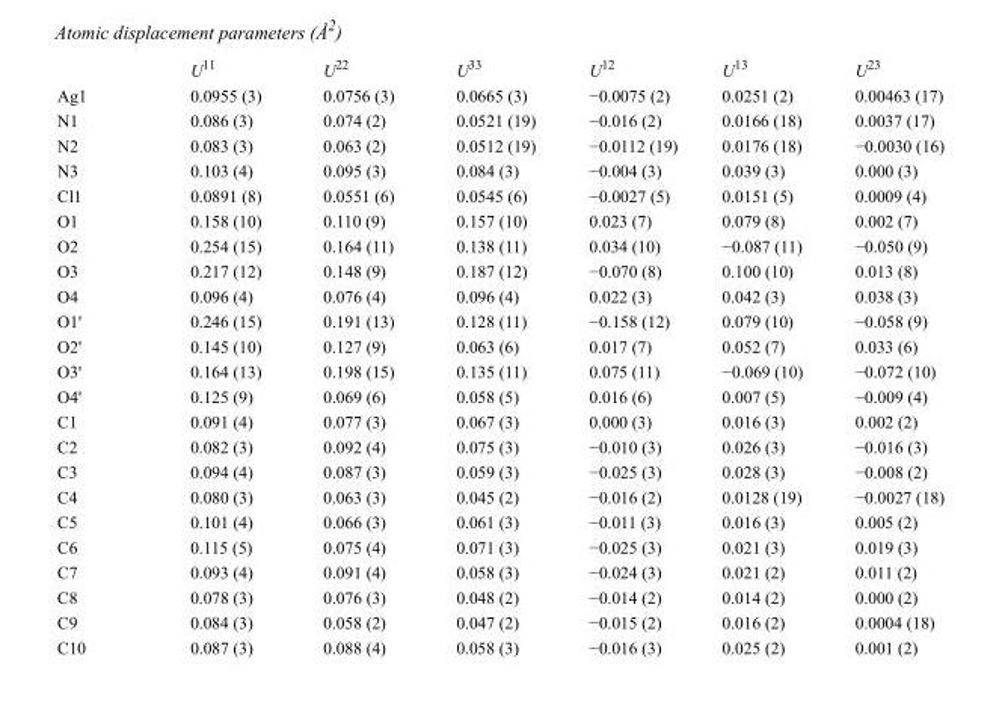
<table><thead><tr><td></td><td>U<sup>11</sup></td><td>U<sup>22</sup></td><td>U<sup>33</sup></td><td>U<sup>12</sup></td><td>U<sup>13</sup></td><td>U<sup>23</sup></td></tr></thead><tbody><tr><td>Ag1</td><td>0.0955 (3)</td><td>0.0756 (3)</td><td>0.0665 (3)</td><td>−0.0075 (2)</td><td>0.0251 (2)</td><td>0.00463 (17)</td></tr><tr><td>N1</td><td>0.086 (3)</td><td>0.074 (2)</td><td>0.0521 (19)</td><td>−0.016 (2)</td><td>0.0166 (18)</td><td>0.0037 (17)</td></tr><tr><td>N2</td><td>0.083 (3)</td><td>0.063 (2)</td><td>0.0512 (19)</td><td>−0.0112 (19)</td><td>0.0176 (18)</td><td>−0.0030 (16)</td></tr><tr><td>N3</td><td>0.103 (4)</td><td>0.095 (3)</td><td>0.084 (3)</td><td>−0.004 (3)</td><td>0.039 (3)</td><td>0.000 (3)</td></tr><tr><td>Cl1</td><td>0.0891 (8)</td><td>0.0551 (6)</td><td>0.0545 (6)</td><td>−0.0027 (5)</td><td>0.0151 (5)</td><td>0.0009 (4)</td></tr><tr><td>O1</td><td>0.158 (10)</td><td>0.110 (9)</td><td>0.157 (10)</td><td>0.023 (7)</td><td>0.079 (8)</td><td>0.002 (7)</td></tr><tr><td>O2</td><td>0.254 (15)</td><td>0.164 (11)</td><td>0.138 (11)</td><td>0.034 (10)</td><td>−0.087 (11)</td><td>−0.050 (9)</td></tr><tr><td>O3</td><td>0.217 (12)</td><td>0.148 (9)</td><td>0.187 (12)</td><td>−0.070 (8)</td><td>0.100 (10)</td><td>0.013 (8)</td></tr><tr><td>O4</td><td>0.096 (4)</td><td>0.076 (4)</td><td>0.096 (4)</td><td>0.022 (3)</td><td>0.042 (3)</td><td>0.038 (3)</td></tr><tr><td>O1&#x27;</td><td>0.246 (15)</td><td>0.191 (13)</td><td>0.128 (11)</td><td>−0.158 (12)</td><td>0.079 (10)</td><td>−0.058 (9)</td></tr><tr><td>O2&#x27;</td><td>0.145 (10)</td><td>0.127 (9)</td><td>0.063 (6)</td><td>0.017 (7)</td><td>0.052 (7)</td><td>0.033 (6)</td></tr><tr><td>O3&#x27;</td><td>0.164 (13)</td><td>0.198 (15)</td><td>0.135 (11)</td><td>0.075 (11)</td><td>−0.069 (10)</td><td>−0.072 (10)</td></tr><tr><td>O4&#x27;</td><td>0.125 (9)</td><td>0.069 (6)</td><td>0.058 (5)</td><td>0.016 (6)</td><td>0.007 (5)</td><td>−0.009 (4)</td></tr><tr><td>C1</td><td>0.091 (4)</td><td>0.077 (3)</td><td>0.067 (3)</td><td>0.000 (3)</td><td>0.016 (3)</td><td>0.002 (2)</td></tr><tr><td>C2</td><td>0.082 (3)</td><td>0.092 (4)</td><td>0.075 (3)</td><td>−0.010 (3)</td><td>0.026 (3)</td><td>−0.016 (3)</td></tr><tr><td>C3</td><td>0.094 (4)</td><td>0.087 (3)</td><td>0.059 (3)</td><td>−0.025 (3)</td><td>0.028 (3)</td><td>−0.008 (2)</td></tr><tr><td>C4</td><td>0.080 (3)</td><td>0.063 (3)</td><td>0.045 (2)</td><td>−0.016 (2)</td><td>0.0128 (19)</td><td>−0.0027 (18)</td></tr><tr><td>C5</td><td>0.101 (4)</td><td>0.066 (3)</td><td>0.061 (3)</td><td>−0.011 (3)</td><td>0.016 (3)</td><td>0.005 (2)</td></tr><tr><td>C6</td><td>0.115 (5)</td><td>0.075 (4)</td><td>0.071 (3)</td><td>−0.025 (3)</td><td>0.021 (3)</td><td>0.019 (3)</td></tr><tr><td>C7</td><td>0.093 (4)</td><td>0.091 (4)</td><td>0.058 (3)</td><td>−0.024 (3)</td><td>0.021 (2)</td><td>0.011 (2)</td></tr><tr><td>C8</td><td>0.078 (3)</td><td>0.076 (3)</td><td>0.048 (2)</td><td>−0.014 (2)</td><td>0.014 (2)</td><td>0.000 (2)</td></tr><tr><td>C9</td><td>0.084 (3)</td><td>0.058 (2)</td><td>0.047 (2)</td><td>−0.015 (2)</td><td>0.016 (2)</td><td>0.0004 (18)</td></tr><tr><td>C10</td><td>0.087 (3)</td><td>0.088 (4)</td><td>0.058 (3)</td><td>−0.016 (3)</td><td>0.025 (2)</td><td>0.001 (2)</td></tr></tbody></table>